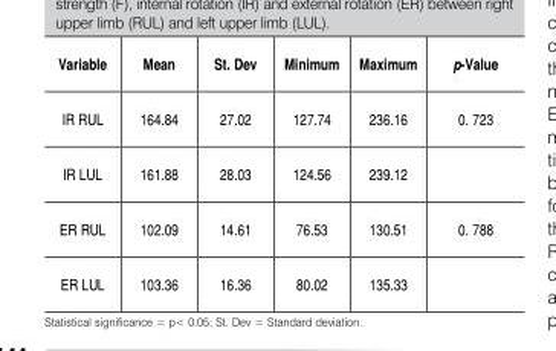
<table><thead><tr><td>Variable</td><td>Mean</td><td>St. Dev</td><td>Minimum</td><td>Maximum</td><td>p-Value</td></tr></thead><tbody><tr><td>IR RUL</td><td>164.84</td><td>27.02</td><td>127.74</td><td>236.16</td><td>0. 723</td></tr><tr><td>IR LUL</td><td>161.88</td><td>28.03</td><td>124.56</td><td>239.12</td><td></td></tr><tr><td>ER RUL</td><td>102.09</td><td>14.61</td><td>76.53</td><td>130.51</td><td>0. 788</td></tr><tr><td>ER LUL</td><td>103.36</td><td>16.36</td><td>80.02</td><td>135.33</td><td></td></tr></tbody></table>